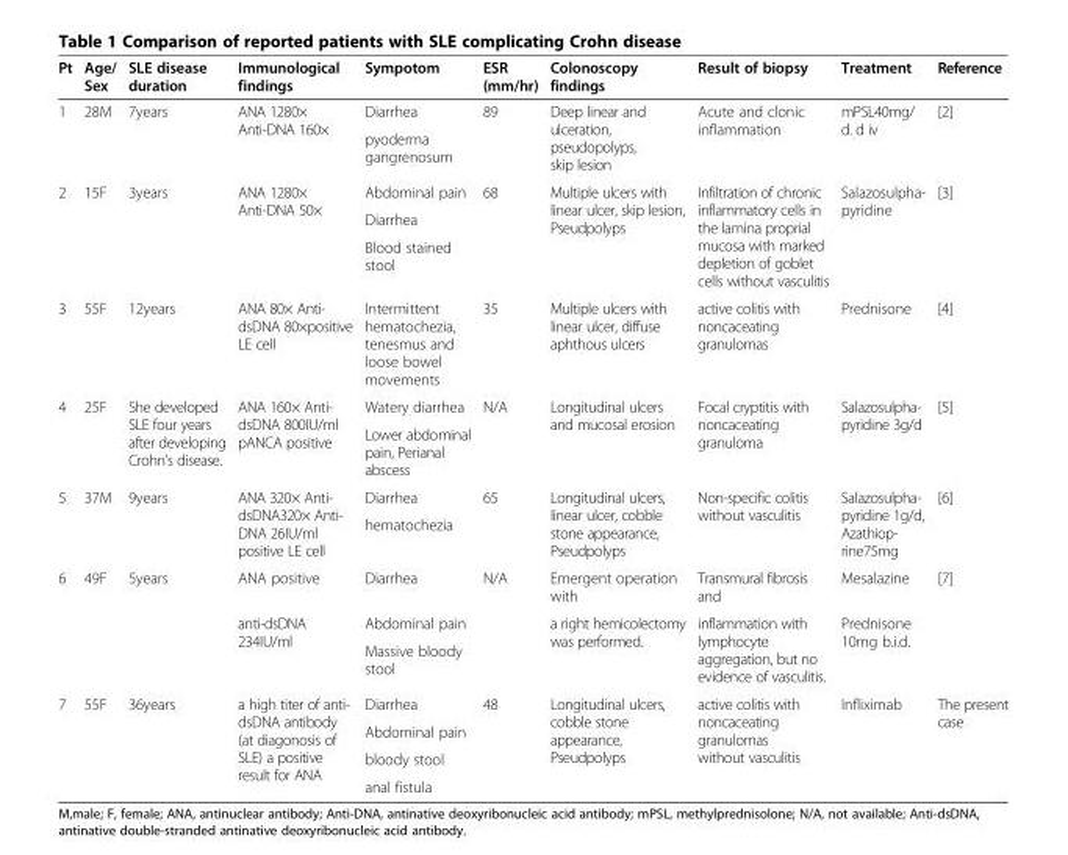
<table><thead><tr><td>Pt</td><td>Age/ Sex</td><td>SLE disease duration</td><td>Immunological findings</td><td>Sympotom</td><td>ESR (mm/hr)</td><td>Colonoscopy findings</td><td>Result of biopsy</td><td>Treatment</td><td>Reference</td></tr></thead><tbody><tr><td rowspan="2">1</td><td rowspan="2">28M</td><td rowspan="2">7years</td><td rowspan="2">ANA 1280× Anti-DNA 160×</td><td>Diarrhea</td><td rowspan="2">89</td><td rowspan="2">Deep linear and ulceration, pseudopolyps, skip lesion</td><td rowspan="2">Acute and clonic inflammation</td><td rowspan="2">mPSL40mg/ d. d iv</td><td rowspan="2">[2]</td></tr><tr><td>pyoderma gangrenosum</td></tr><tr><td rowspan="3">2</td><td rowspan="3">15F</td><td rowspan="3">3years</td><td rowspan="3">ANA 1280× Anti-DNA 50×</td><td>Abdominal pain</td><td rowspan="3">68</td><td rowspan="3">Multiple ulcers with linear ulcer, skip lesion, Pseudpolyps</td><td rowspan="3">Infiltration of chronic inflammatory cells in the lamina proprial mucosa with marked depletion of goblet cells without vasculitis</td><td rowspan="3">Salazosulpha- pyridine</td><td rowspan="3">[3]</td></tr><tr><td>Diarrhea</td></tr><tr><td>Blood stained stool</td></tr><tr><td>3</td><td>55F</td><td>12years</td><td>ANA 80× Anti- dsDNA 80×positive LE cell</td><td>Intermittent hematochezia, tenesmus and loose bowel movements</td><td>35</td><td>Multiple ulcers with linear ulcer, diffuse aphthous ulcers</td><td>active colitis with noncaceating granulomas</td><td>Prednisone</td><td>[4]</td></tr><tr><td rowspan="2">4</td><td rowspan="2">25F</td><td rowspan="2">She developed SLE four years after developing Crohn’s disease.</td><td rowspan="2">ANA 160× Anti- dsDNA 800IU/ml pANCA positive</td><td>Watery diarrhea</td><td rowspan="2">N/A</td><td rowspan="2">Longitudinal ulcers and mucosal erosion</td><td rowspan="2">Focal cryptitis with noncaceating granuloma</td><td rowspan="2">Salazosulpha- pyridine 3g/d</td><td rowspan="2">[5]</td></tr><tr><td>Lower abdominal pain, Perianal abscess</td></tr><tr><td rowspan="2">5</td><td rowspan="2">37M</td><td rowspan="2">9years</td><td rowspan="2">ANA 320× Anti- dsDNA320× Anti- DNA 26IU/ml positive LE cell</td><td>Diarrhea</td><td rowspan="2">65</td><td rowspan="2">Longitudinal ulcers, linear ulcer, cobble stone appearance, Pseudpolyps</td><td rowspan="2">Non-specific colitis without vasculitis</td><td rowspan="2">Salazosulpha- pyridine 1g/d, Azathiop- rine75mg</td><td rowspan="2">[6]</td></tr><tr><td>hematochezia</td></tr><tr><td rowspan="3">6</td><td>49F</td><td>5years</td><td>ANA positive</td><td>Diarrhea</td><td>N/A</td><td>Emergent operation with</td><td>Transmural fibrosis and</td><td>Mesalazine</td><td>[7]</td></tr><tr><td rowspan="2"></td><td rowspan="2"></td><td rowspan="2">anti-dsDNA 234IU/ml</td><td>Abdominal pain</td><td rowspan="2"></td><td rowspan="2">a right hemicolectomy was performed.</td><td rowspan="2">inflammation with lymphocyte aggregation, but no evidence of vasculitis.</td><td rowspan="2">Prednisone 10mg b.i.d.</td><td rowspan="2"></td></tr><tr><td>Massive bloody stool</td></tr><tr><td rowspan="4">7</td><td rowspan="4">55F</td><td rowspan="4">36years</td><td rowspan="4">a high titer of anti- dsDNA antibody (at diagonosis of SLE) a positive result for ANA</td><td>Diarrhea</td><td rowspan="4">48</td><td rowspan="4">Longitudinal ulcers, cobble stone appearance, Pseudpolyps</td><td rowspan="4">active colitis with noncaceating granulomas without vasculitis</td><td rowspan="4">Infliximab</td><td rowspan="4">The present case</td></tr><tr><td>Abdominal pain</td></tr><tr><td>bloody stool</td></tr><tr><td>anal fistula</td></tr></tbody></table>